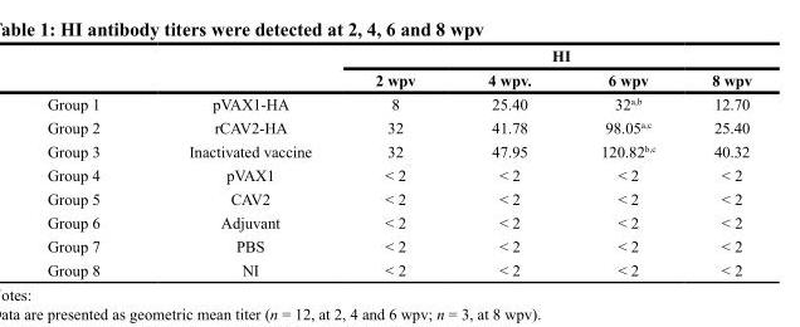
<table><thead><tr><td rowspan="2"></td><td rowspan="2"></td><td colspan="4">HI</td></tr><tr><td>2 wpv</td><td>4 wpv.</td><td>6 wpv</td><td>8 wpv</td></tr></thead><tbody><tr><td>Group 1</td><td>pVAX1-HA</td><td>8</td><td>25.40</td><td>32<sup>a,b</sup></td><td>12.70</td></tr><tr><td>Group 2</td><td>rCAV2-HA</td><td>32</td><td>41.78</td><td>98.05<sup>a,c</sup></td><td>25.40</td></tr><tr><td>Group 3</td><td>Inactivated vaccine</td><td>32</td><td>47.95</td><td>120.82<sup>b,c</sup></td><td>40.32</td></tr><tr><td>Group 4</td><td>pVAX1</td><td>&lt; 2</td><td>&lt; 2</td><td>&lt; 2</td><td>&lt; 2</td></tr><tr><td>Group 5</td><td>CAV2</td><td>&lt; 2</td><td>&lt; 2</td><td>&lt; 2</td><td>&lt; 2</td></tr><tr><td>Group 6</td><td>Adjuvant</td><td>&lt; 2</td><td>&lt; 2</td><td>&lt; 2</td><td>&lt; 2</td></tr><tr><td>Group 7</td><td>PBS</td><td>&lt; 2</td><td>&lt; 2</td><td>&lt; 2</td><td>&lt; 2</td></tr><tr><td>Group 8</td><td>NI</td><td>&lt; 2</td><td>&lt; 2</td><td>&lt; 2</td><td>&lt; 2</td></tr></tbody></table>